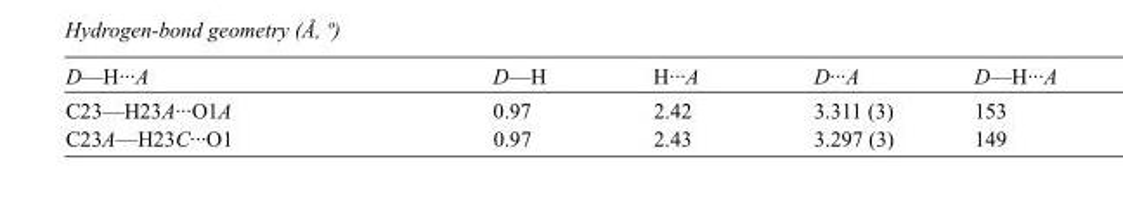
<table><tbody><tr><td>D—H···A</td><td>D—H</td><td>H···A</td><td>D···A</td><td>D—H···A</td></tr><tr><td>C23—H23A···O1A</td><td>0.97</td><td>2.42</td><td>3.311 (3)</td><td>153</td></tr><tr><td>C23A—H23C···O1</td><td>0.97</td><td>2.43</td><td>3.297 (3)</td><td>149</td></tr></tbody></table>